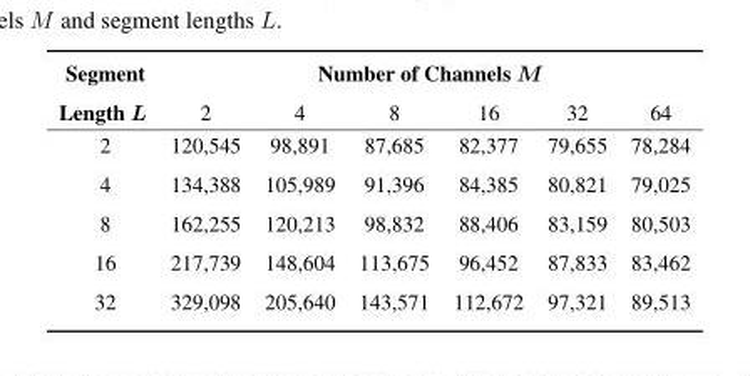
<table><thead><tr><td rowspan="2">Segment Length L</td><td colspan="6">Number of Channels M</td></tr><tr><td>2</td><td>4</td><td>8</td><td>16</td><td>32</td><td>64</td></tr></thead><tbody><tr><td>2</td><td>120,545</td><td>98,891</td><td>87,685</td><td>82,377</td><td>79,655</td><td>78,284</td></tr><tr><td>4</td><td>134,388</td><td>105,989</td><td>91,396</td><td>84,385</td><td>80,821</td><td>79,025</td></tr><tr><td>8</td><td>162,255</td><td>120,213</td><td>98,832</td><td>88,406</td><td>83,159</td><td>80,503</td></tr><tr><td>16</td><td>217,739</td><td>148,604</td><td>113,675</td><td>96,452</td><td>87,833</td><td>83,462</td></tr><tr><td>32</td><td>329,098</td><td>205,640</td><td>143,571</td><td>112,672</td><td>97,321</td><td>89,513</td></tr></tbody></table>